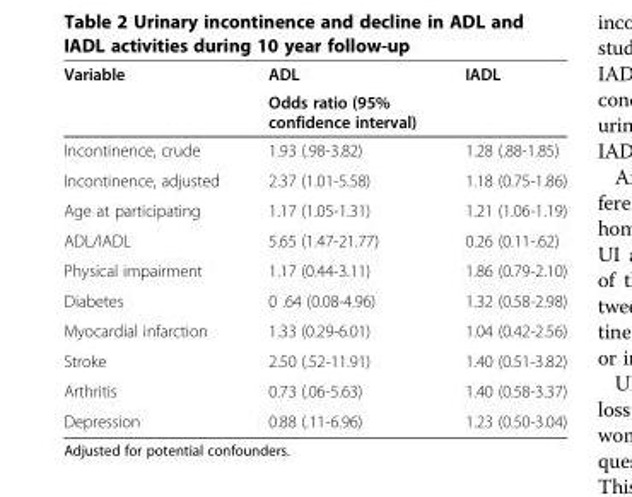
<table><thead><tr><td rowspan="2">Variable</td><td rowspan="2">ADL Odds ratio (95% confidence interval)</td><td rowspan="2">IADL</td></tr><tr></tr></thead><tbody><tr><td>Incontinence, crude</td><td>1.93 (.98-3.82)</td><td>1.28 (.88-1.85)</td></tr><tr><td>Incontinence, adjusted</td><td>2.37 (1.01-5.58)</td><td>1.18 (0.75-1.86)</td></tr><tr><td>Age at participating</td><td>1.17 (1.05-1.31)</td><td>1.21 (1.06-1.19)</td></tr><tr><td>ADL/IADL</td><td>5.65 (1.47-21.77)</td><td>0.26 (0.11-.62)</td></tr><tr><td>Physical impairment</td><td>1.17 (0.44-3.11)</td><td>1.86 (0.79-2.10)</td></tr><tr><td>Diabetes</td><td>0 .64 (0.08-4.96)</td><td>1.32 (0.58-2.98)</td></tr><tr><td>Myocardial infarction</td><td>1.33 (0.29-6.01)</td><td>1.04 (0.42-2.56)</td></tr><tr><td>Stroke</td><td>2.50 (.52-11.91)</td><td>1.40 (0.51-3.82)</td></tr><tr><td>Arthritis</td><td>0.73 (.06-5.63)</td><td>1.40 (0.58-3.37)</td></tr><tr><td>Depression</td><td>0.88 (.11-6.96)</td><td>1.23 (0.50-3.04)</td></tr></tbody></table>